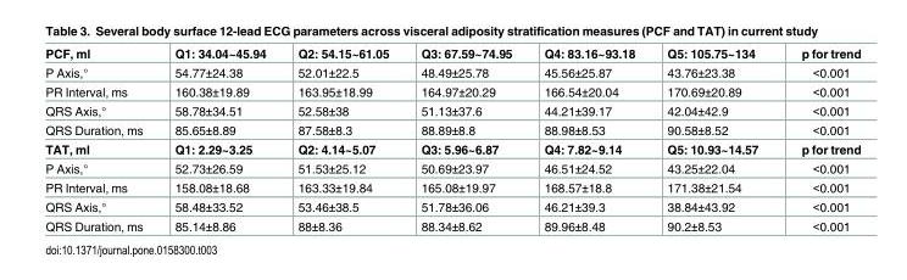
<table><tbody><tr><td>PCF, ml</td><td>Q1: 34.04~45.94</td><td>Q2: 54.15~61.05</td><td>Q3: 67.59~74.95</td><td>Q4: 83.16~93.18</td><td>Q5: 105.75~134</td><td>p for trend</td></tr><tr><td>P Axis,°</td><td>54.77±24.38</td><td>52.01±22.5</td><td>48.49±25.78</td><td>45.56±25.87</td><td>43.76±23.38</td><td>&lt;0.001</td></tr><tr><td>PR Interval, ms</td><td>160.38±19.89</td><td>163.95±18.99</td><td>164.97±20.29</td><td>166.54±20.04</td><td>170.69±20.89</td><td>&lt;0.001</td></tr><tr><td>QRS Axis,°</td><td>58.78±34.51</td><td>52.58±38</td><td>51.13±37.6</td><td>44.21±39.17</td><td>42.04±42.9</td><td>&lt;0.001</td></tr><tr><td>QRS Duration, ms</td><td>85.65±8.89</td><td>87.58±8.3</td><td>88.89±8.8</td><td>88.98±8.53</td><td>90.58±8.52</td><td>&lt;0.001</td></tr><tr><td>TAT, ml</td><td>Q1: 2.29~3.25</td><td>Q2: 4.14~5.07</td><td>Q3: 5.96~6.87</td><td>Q4: 7.82~9.14</td><td>Q5: 10.93~14.57</td><td>p for trend</td></tr><tr><td>P Axis,°</td><td>52.73±26.59</td><td>51.53±25.12</td><td>50.69±23.97</td><td>46.51±24.52</td><td>43.25±22.04</td><td>&lt;0.001</td></tr><tr><td>PR Interval, ms</td><td>158.08±18.68</td><td>163.33±19.84</td><td>165.08±19.97</td><td>168.57±18.8</td><td>171.38±21.54</td><td>&lt;0.001</td></tr><tr><td>QRS Axis,°</td><td>58.48±33.52</td><td>53.46±38.5</td><td>51.78±36.06</td><td>46.21±39.3</td><td>38.84±43.92</td><td>&lt;0.001</td></tr><tr><td>QRS Duration, ms</td><td>85.14±8.86</td><td>88±8.36</td><td>88.34±8.62</td><td>89.96±8.48</td><td>90.2±8.53</td><td>&lt;0.001</td></tr></tbody></table>